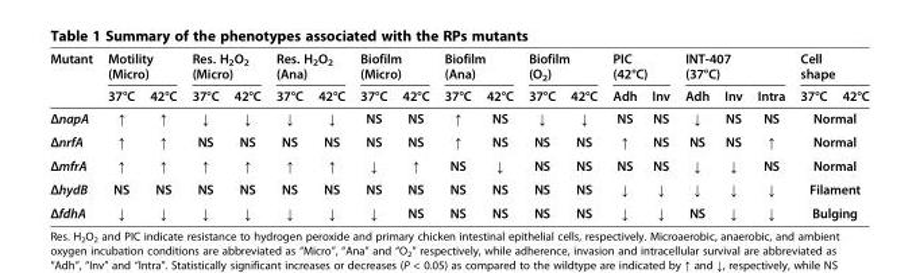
<table><thead><tr><td rowspan="2">Mutant</td><td colspan="2">Motility (Micro)</td><td colspan="2">Res. H<sub>2</sub>O<sub>2</sub> (Micro)</td><td colspan="2">Res. H<sub>2</sub>O<sub>2</sub> (Ana)</td><td colspan="2">Biofilm (Micro)</td><td colspan="2">Biofilm (Ana)</td><td colspan="2">Biofilm (O<sub>2</sub>)</td><td colspan="2">PIC (42°C)</td><td colspan="3">INT-407 (37°C)</td><td colspan="2">Cell shape</td></tr><tr><td>37°C</td><td>42°C</td><td>37°C</td><td>42°C</td><td>37°C</td><td>42°C</td><td>37°C</td><td>42°C</td><td>37°C</td><td>42°C</td><td>37°C</td><td>42°C</td><td>Adh</td><td>Inv</td><td>Adh</td><td>Inv</td><td>Intra</td><td>37°C</td><td>42°C</td></tr></thead><tbody><tr><td>ΔnapA</td><td>↑</td><td>↑</td><td>↓</td><td>↓</td><td>↓</td><td>↓</td><td>NS</td><td>NS</td><td>↑</td><td>NS</td><td>↓</td><td>↓</td><td>NS</td><td>NS</td><td>↓</td><td>NS</td><td>NS</td><td colspan="2">Normal</td></tr><tr><td>ΔnrfA</td><td>↑</td><td>↑</td><td>NS</td><td>NS</td><td>NS</td><td>NS</td><td>NS</td><td>NS</td><td>↑</td><td>NS</td><td>NS</td><td>NS</td><td>↑</td><td>NS</td><td>NS</td><td>NS</td><td>↑</td><td colspan="2">Normal</td></tr><tr><td>ΔmfrA</td><td>↑</td><td>↑</td><td>↑</td><td>↑</td><td>↑</td><td>↑</td><td>↓</td><td>↑</td><td>NS</td><td>↓</td><td>NS</td><td>NS</td><td>NS</td><td>NS</td><td>↓</td><td>↓</td><td>NS</td><td colspan="2">Normal</td></tr><tr><td>ΔhydB</td><td>NS</td><td>NS</td><td>NS</td><td>NS</td><td>NS</td><td>NS</td><td>NS</td><td>NS</td><td>NS</td><td>NS</td><td>NS</td><td>NS</td><td>↓</td><td>↓</td><td>↓</td><td>↓</td><td>↓</td><td colspan="2">Filament</td></tr><tr><td>ΔfdhA</td><td>↓</td><td>↓</td><td>↓</td><td>↓</td><td>↓</td><td>↓</td><td>↓</td><td>NS</td><td>NS</td><td>NS</td><td>NS</td><td>NS</td><td>↓</td><td>↓</td><td>NS</td><td>↓</td><td>↓</td><td colspan="2">Bulging</td></tr></tbody></table>